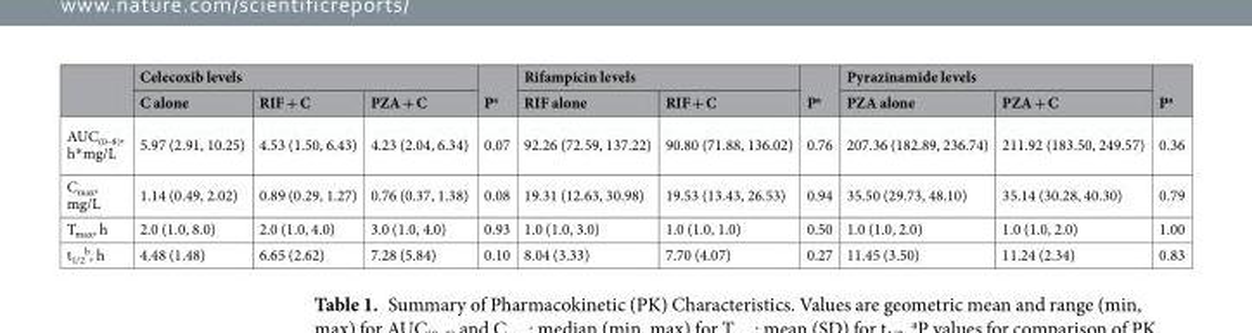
<table><thead><tr><td rowspan="2"></td><td colspan="3">Celecoxib levels</td><td rowspan="2">P<sup>a</sup></td><td colspan="2">Rifampicin levels</td><td rowspan="2">P<sup>a</sup></td><td colspan="2">Pyrazinamide levels</td><td rowspan="2">P<sup>a</sup></td></tr><tr><td>C alone</td><td>RIF + C</td><td>PZA + C</td><td>RIF alone</td><td>RIF + C</td><td>PZA alone</td><td>PZA + C</td></tr></thead><tbody><tr><td>AUC<sub>(0–8)</sub>, h*mg/L</td><td>5.97 (2.91, 10.25)</td><td>4.53 (1.50, 6.43)</td><td>4.23 (2.04, 6.34)</td><td>0.07</td><td>92.26 (72.59, 137.22)</td><td>90.80 (71.88, 136.02)</td><td>0.76</td><td>207.36 (182.89, 236.74)</td><td>211.92 (183.50, 249.57)</td><td>0.36</td></tr><tr><td>C<sub>max</sub>, mg/L</td><td>1.14 (0.49, 2.02)</td><td>0.89 (0.29, 1.27)</td><td>0.76 (0.37, 1.38)</td><td>0.08</td><td>19.31 (12.63, 30.98)</td><td>19.53 (13.43, 26.53)</td><td>0.94</td><td>35.50 (29.73, 48.10)</td><td>35.14 (30.28, 40.30)</td><td>0.79</td></tr><tr><td>T<sub>max</sub>, h</td><td>2.0 (1.0, 8.0)</td><td>2.0 (1.0, 4.0)</td><td>3.0 (1.0, 4.0)</td><td>0.93</td><td>1.0 (1.0, 3.0)</td><td>1.0 (1.0, 1.0)</td><td>0.50</td><td>1.0 (1.0, 2.0)</td><td>1.0 (1.0, 2.0)</td><td>1.00</td></tr><tr><td>t<sub>1/2</sub> <sup>b</sup>, h</td><td>4.48 (1.48)</td><td>6.65 (2.62)</td><td>7.28 (5.84)</td><td>0.10</td><td>8.04 (3.33)</td><td>7.70 (4.07)</td><td>0.27</td><td>11.45 (3.50)</td><td>11.24 (2.34)</td><td>0.83</td></tr></tbody></table>